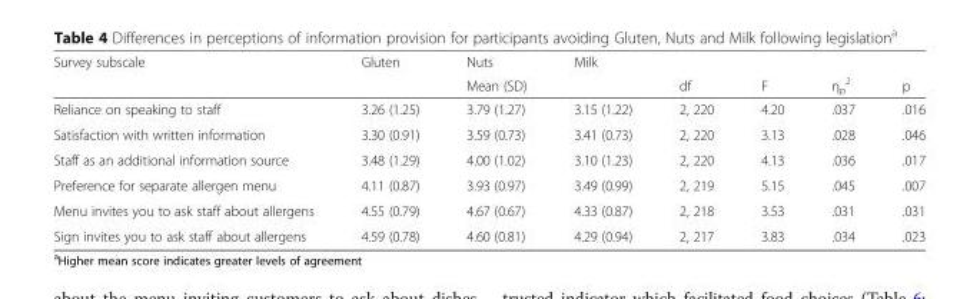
<table><thead><tr><td rowspan="2">Survey subscale</td><td rowspan="2">Gluten</td><td rowspan="2">Nuts Mean (SD)</td><td rowspan="2">Milk</td><td rowspan="2">df</td><td rowspan="2">F</td><td rowspan="2">η<sub>p</sub> <sup>2</sup></td><td rowspan="2">p</td></tr><tr></tr></thead><tbody><tr><td>Reliance on speaking to staff</td><td>3.26 (1.25)</td><td>3.79 (1.27)</td><td>3.15 (1.22)</td><td>2, 220</td><td>4.20</td><td>.037</td><td>.016</td></tr><tr><td>Satisfaction with written information</td><td>3.30 (0.91)</td><td>3.59 (0.73)</td><td>3.41 (0.73)</td><td>2, 220</td><td>3.13</td><td>.028</td><td>.046</td></tr><tr><td>Staff as an additional information source</td><td>3.48 (1.29)</td><td>4.00 (1.02)</td><td>3.10 (1.23)</td><td>2, 220</td><td>4.13</td><td>.036</td><td>.017</td></tr><tr><td>Preference for separate allergen menu</td><td>4.11 (0.87)</td><td>3.93 (0.97)</td><td>3.49 (0.99)</td><td>2, 219</td><td>5.15</td><td>.045</td><td>.007</td></tr><tr><td>Menu invites you to ask staff about allergens</td><td>4.55 (0.79)</td><td>4.67 (0.67)</td><td>4.33 (0.87)</td><td>2, 218</td><td>3.53</td><td>.031</td><td>.031</td></tr><tr><td>Sign invites you to ask staff about allergens</td><td>4.59 (0.78)</td><td>4.60 (0.81)</td><td>4.29 (0.94)</td><td>2, 217</td><td>3.83</td><td>.034</td><td>.023</td></tr></tbody></table>